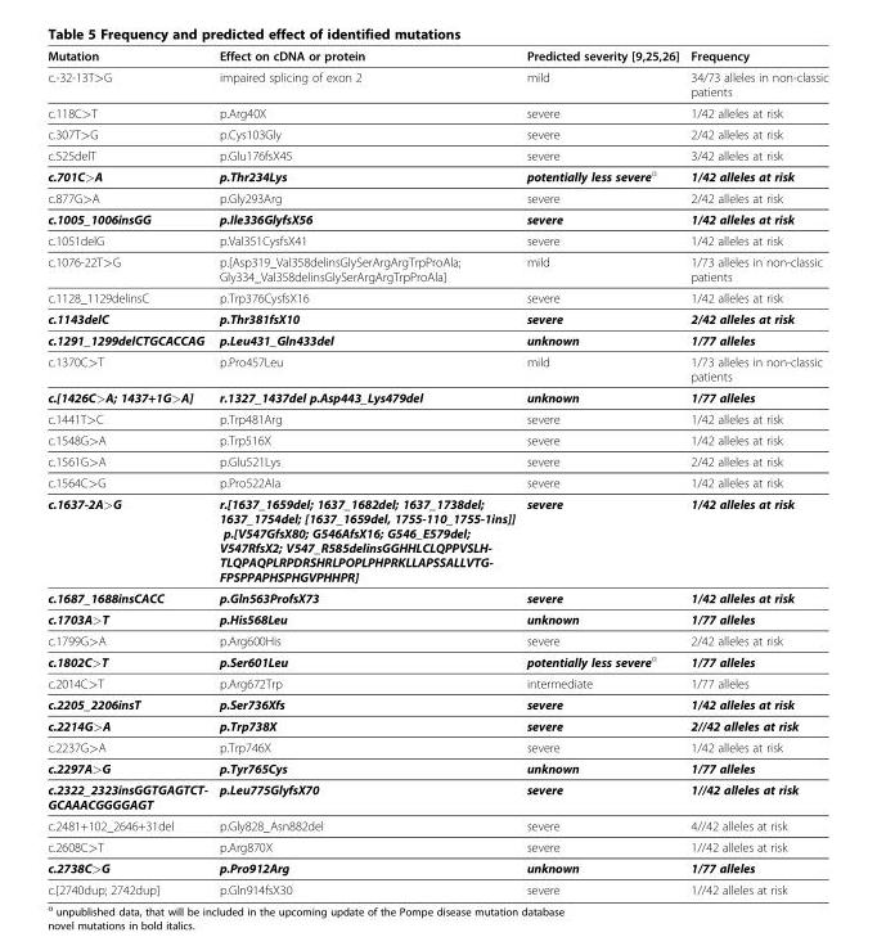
<table><thead><tr><td>Mutation</td><td>Effect on cDNA or protein</td><td>Predicted severity [9,25,26]</td><td>Frequency</td></tr></thead><tbody><tr><td>c.-32-13T&gt;G</td><td>impaired splicing of exon 2</td><td>mild</td><td>34/73 alleles in non-classic patients</td></tr><tr><td>c.118C&gt;T</td><td>p.Arg40X</td><td>severe</td><td>1/42 alleles at risk</td></tr><tr><td>c.307T&gt;G</td><td>p.Cys103Gly</td><td>severe</td><td>2/42 alleles at risk</td></tr><tr><td>c.525delT</td><td>p.Glu176fsX45</td><td>severe</td><td>3/42 alleles at risk</td></tr><tr><td>c.701C&gt;A</td><td>p.Thr234Lys</td><td>potentially less severe<sup>α</sup></td><td>1/42 alleles at risk</td></tr><tr><td>c.877G&gt;A</td><td>p.Gly293Arg</td><td>severe</td><td>2/42 alleles at risk</td></tr><tr><td>c.1005_1006insGG</td><td>p.Ile336GlyfsX56</td><td>severe</td><td>1/42 alleles at risk</td></tr><tr><td>c.1051delG</td><td>p.Val351CysfsX41</td><td>severe</td><td>1/42 alleles at risk</td></tr><tr><td>c.1076-22T&gt;G</td><td>p.[Asp319_Val358delinsGlySerArgArgTrpProAla; Gly334_Val358delinsGlySerArgArgTrpProAla]</td><td>mild</td><td>1/73 alleles in non-classic patients</td></tr><tr><td>c.1128_1129delinsC</td><td>p.Trp376CysfsX16</td><td>severe</td><td>1/42 alleles at risk</td></tr><tr><td>c.1143delC</td><td>p.Thr381fsX10</td><td>severe</td><td>2/42 alleles at risk</td></tr><tr><td>c.1291_1299delCTGCACCAG</td><td>p.Leu431_Gln433del</td><td>unknown</td><td>1/77 alleles</td></tr><tr><td>c.1370C&gt;T</td><td>p.Pro457Leu</td><td>mild</td><td>1/73 alleles in non-classic patients</td></tr><tr><td>c.[1426C&gt;A; 1437+1G&gt;A]</td><td>r.1327_1437del p.Asp443_Lys479del</td><td>unknown</td><td>1/77 alleles</td></tr><tr><td>c.1441T&gt;C</td><td>p.Trp481Arg</td><td>severe</td><td>1/42 alleles at risk</td></tr><tr><td>c.1548G&gt;A</td><td>p.Trp516X</td><td>severe</td><td>1/42 alleles at risk</td></tr><tr><td>c.1561G&gt;A</td><td>p.Glu521Lys</td><td>severe</td><td>2/42 alleles at risk</td></tr><tr><td>c.1564C&gt;G</td><td>p.Pro522Ala</td><td>severe</td><td>1/42 alleles at risk</td></tr><tr><td>c.1637-2A&gt;G</td><td>r.[1637_1659del; 1637_1682del; 1637_1738del; 1637_1754del; [1637_1659del, 1755-110_1755-1ins]] p.[V547GfsX80; G546AfsX16; G546_E579del; V547RfsX2; V547_R585delinsGGHHLCLQPPVSLH- TLQPAQPLRPDRSHRLPOPLPHPRKLLAPSSALLVTG- FPSPPAPHSPHGVPHHPR]</td><td>severe</td><td>1/42 alleles at risk</td></tr><tr><td>c.1687_1688insCACC</td><td>p.Gln563ProfsX73</td><td>severe</td><td>1/42 alleles at risk</td></tr><tr><td>c.1703A&gt;T</td><td>p.His568Leu</td><td>unknown</td><td>1/77 alleles</td></tr><tr><td>c.1799G&gt;A</td><td>p.Arg600His</td><td>severe</td><td>2/42 alleles at risk</td></tr><tr><td>c.1802C&gt;T</td><td>p.Ser601Leu</td><td>potentially less severe<sup>α</sup></td><td>1/77 alleles</td></tr><tr><td>c.2014C&gt;T</td><td>p.Arg672Trp</td><td>intermediate</td><td>1/77 alleles</td></tr><tr><td>c.2205_2206insT</td><td>p.Ser736Xfs</td><td>severe</td><td>1/42 alleles at risk</td></tr><tr><td>c.2214G&gt;A</td><td>p.Trp738X</td><td>severe</td><td>2//42 alleles at risk</td></tr><tr><td>c.2237G&gt;A</td><td>p.Trp746X</td><td>severe</td><td>1/42 alleles at risk</td></tr><tr><td>c.2297A&gt;G</td><td>p.Tyr765Cys</td><td>unknown</td><td>1/77 alleles</td></tr><tr><td>c.2322_2323insGGTGAGTCT- GCAAACGGGGAGT</td><td>p.Leu775GlyfsX70</td><td>severe</td><td>1//42 alleles at risk</td></tr><tr><td>c.2481+102_2646+31del</td><td>p.Gly828_Asn882del</td><td>severe</td><td>4//42 alleles at risk</td></tr><tr><td>c.2608C&gt;T</td><td>p.Arg870X</td><td>severe</td><td>1//42 alleles at risk</td></tr><tr><td>c.2738C&gt;G</td><td>p.Pro912Arg</td><td>unknown</td><td>1/77 alleles</td></tr><tr><td>c.[2740dup; 2742dup]</td><td>p.Gln914fsX30</td><td>severe</td><td>1//42 alleles at risk</td></tr></tbody></table>